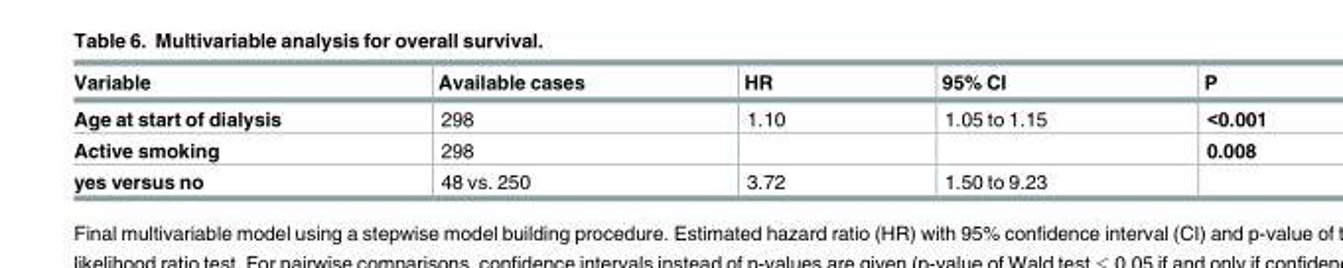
<table><thead><tr><td>Variable</td><td>Available cases</td><td>HR</td><td>95% CI</td><td>P</td></tr></thead><tbody><tr><td>Age at start of dialysis</td><td>298</td><td>1.10</td><td>1.05 to 1.15</td><td>&lt;0.001</td></tr><tr><td>Active smoking</td><td>298</td><td></td><td></td><td>0.008</td></tr><tr><td>yes versus no</td><td>48 vs. 250</td><td>3.72</td><td>1.50 to 9.23</td><td></td></tr></tbody></table>